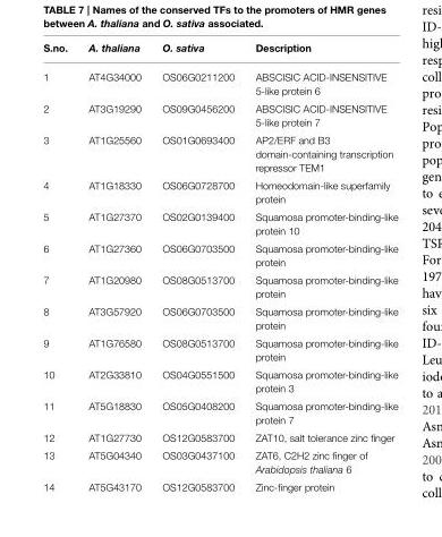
<table><thead><tr><td>S.no.</td><td>A. thaliana</td><td>O. sativa</td><td>Description</td></tr></thead><tbody><tr><td>1</td><td>AT4G34000</td><td>OS06G0211200</td><td>ABSCISIC ACID-INSENSITIVE 5-like protein 6</td></tr><tr><td>2</td><td>AT3G19290</td><td>OS09G0456200</td><td>ABSCISIC ACID-INSENSITIVE 5-like protein 7</td></tr><tr><td>3</td><td>AT1G25560</td><td>OS01G0693400</td><td>AP2/ERF and B3 domain-containing transcription repressor TEM1</td></tr><tr><td>4</td><td>AT1G18330</td><td>OS06G0728700</td><td>Homeodomain-like superfamily protein</td></tr><tr><td>5</td><td>AT1G27370</td><td>OS02G0139400</td><td>Squamosa promoter-binding-like protein 10</td></tr><tr><td>6</td><td>AT1G27360</td><td>OS06G0703500</td><td>Squamosa promoter-binding-like protein</td></tr><tr><td>7</td><td>AT1G20980</td><td>OS08G0513700</td><td>Squamosa promoter-binding-like protein</td></tr><tr><td>8</td><td>AT3G57920</td><td>OS06G0703500</td><td>Squamosa promoter-binding-like protein</td></tr><tr><td>9</td><td>AT1G76580</td><td>OS08G0513700</td><td>Squamosa promoter-binding-like protein</td></tr><tr><td>10</td><td>AT2G33810</td><td>OS04G0551500</td><td>Squamosa promoter-binding-like protein 3</td></tr><tr><td>11</td><td>AT5G18830</td><td>OS05G0408200</td><td>Squamosa promoter-binding-like protein 7</td></tr><tr><td>12</td><td>AT1G27730</td><td>OS12G0583700</td><td>ZAT10, salt tolerance zinc finger</td></tr><tr><td>13</td><td>AT5G04340</td><td>OS03G0437100</td><td>ZAT6, C2H2 zinc finger of Arabidopsis thaliana 6</td></tr><tr><td>14</td><td>AT5G43170</td><td>OS12G0583700</td><td>Zinc-finger protein</td></tr></tbody></table>